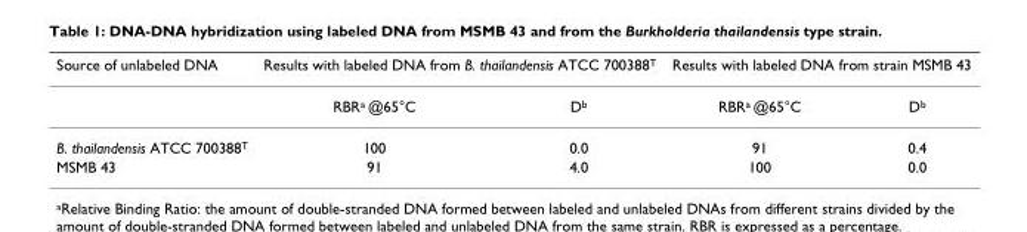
<table><thead><tr><td rowspan="2">Source of unlabeled DNA</td><td colspan="2">Results with labeled DNA from B. thailandensis ATCC 700388<sup>T</sup></td><td colspan="2">Results with labeled DNA from strain MSMB 43</td></tr><tr><td>RBR<sup>a</sup> @65°C</td><td>D<sup>b</sup></td><td>RBR<sup>a</sup> @65°C</td><td>D<sup>b</sup></td></tr></thead><tbody><tr><td>B. thailandensis ATCC 700388<sup>T</sup></td><td>100</td><td>0.0</td><td>91</td><td>0.4</td></tr><tr><td>MSMB 43</td><td>91</td><td>4.0</td><td>100</td><td>0.0</td></tr></tbody></table>